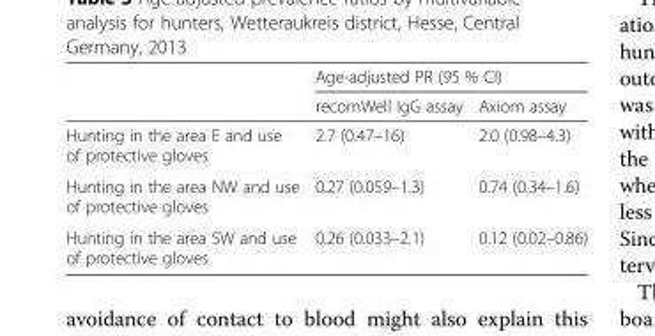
<table><thead><tr><td rowspan="2"></td><td colspan="2">Age-adjusted PR (95 % CI)</td></tr><tr><td>recomWell IgG assay</td><td>Axiom assay</td></tr></thead><tbody><tr><td>Hunting in the area E and use of protective gloves</td><td>2.7 (0.47–16)</td><td>2.0 (0.98–4.3)</td></tr><tr><td>Hunting in the area NW and use of protective gloves</td><td>0.27 (0.059–1.3)</td><td>0.74 (0.34–1.6)</td></tr><tr><td>Hunting in the area SW and use of protective gloves</td><td>0.26 (0.033–2.1)</td><td>0.12 (0.02–0.86)</td></tr></tbody></table>